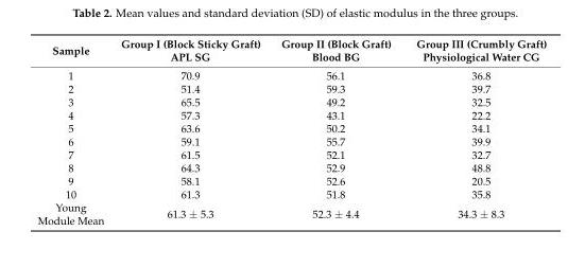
<table><thead><tr><td>Sample</td><td>Group I (Block Sticky Graft) APL SG</td><td>Group II (Block Graft) Blood BG</td><td>Group III (Crumbly Graft) Physiological Water CG</td></tr></thead><tbody><tr><td>1</td><td>70.9</td><td>56.1</td><td>36.8</td></tr><tr><td>2</td><td>51.4</td><td>59.3</td><td>39.7</td></tr><tr><td>3</td><td>65.5</td><td>49.2</td><td>32.5</td></tr><tr><td>4</td><td>57.3</td><td>43.1</td><td>22.2</td></tr><tr><td>5</td><td>63.6</td><td>50.2</td><td>34.1</td></tr><tr><td>6</td><td>59.1</td><td>55.7</td><td>39.9</td></tr><tr><td>7</td><td>61.5</td><td>52.1</td><td>32.7</td></tr><tr><td>8</td><td>64.3</td><td>52.9</td><td>48.8</td></tr><tr><td>9</td><td>58.1</td><td>52.6</td><td>20.5</td></tr><tr><td>10</td><td>61.3</td><td>51.8</td><td>35.8</td></tr><tr><td>Young Module Mean</td><td>61.3 ± 5.3</td><td>52.3 ± 4.4</td><td>34.3 ± 8.3</td></tr></tbody></table>